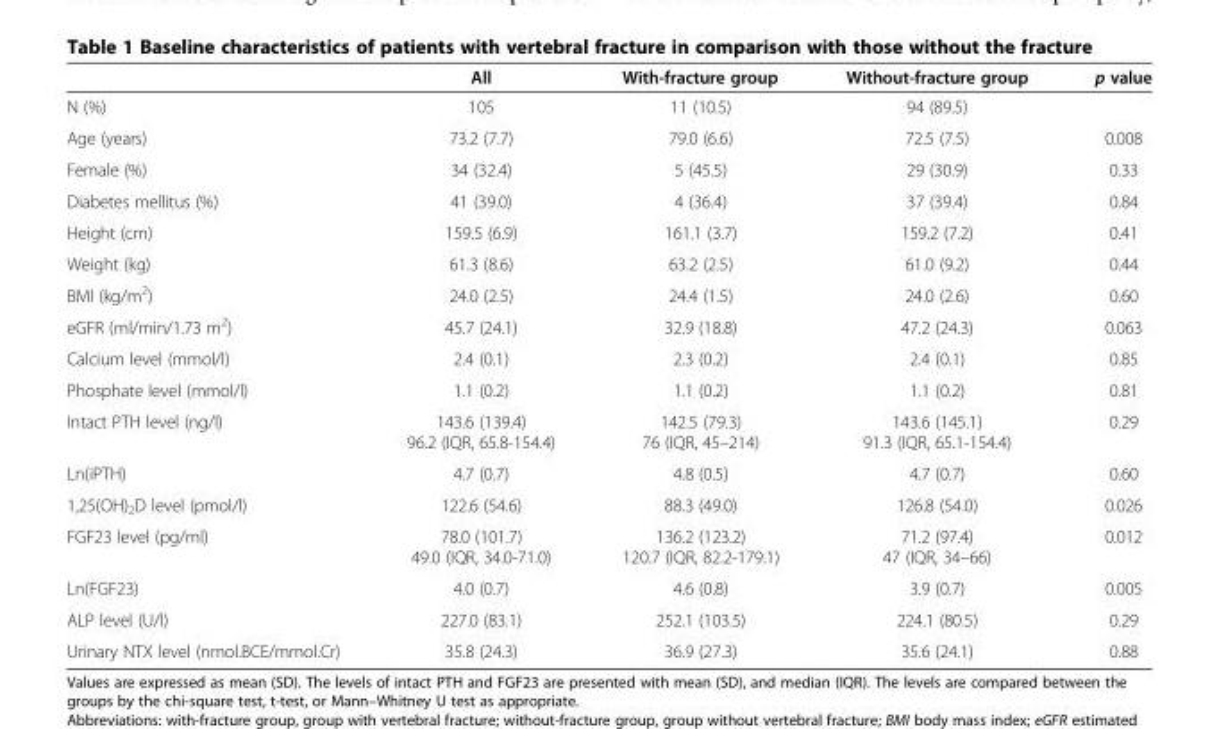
<table><thead><tr><td></td><td>All</td><td>With-fracture group</td><td>Without-fracture group</td><td>p value</td></tr></thead><tbody><tr><td>N (%)</td><td>105</td><td>11 (10.5)</td><td>94 (89.5)</td><td></td></tr><tr><td>Age (years)</td><td>73.2 (7.7)</td><td>79.0 (6.6)</td><td>72.5 (7.5)</td><td>0.008</td></tr><tr><td>Female (%)</td><td>34 (32.4)</td><td>5 (45.5)</td><td>29 (30.9)</td><td>0.33</td></tr><tr><td>Diabetes mellitus (%)</td><td>41 (39.0)</td><td>4 (36.4)</td><td>37 (39.4)</td><td>0.84</td></tr><tr><td>Height (cm)</td><td>159.5 (6.9)</td><td>161.1 (3.7)</td><td>159.2 (7.2)</td><td>0.41</td></tr><tr><td>Weight (kg)</td><td>61.3 (8.6)</td><td>63.2 (2.5)</td><td>61.0 (9.2)</td><td>0.44</td></tr><tr><td>BMI (kg/m<sup>2</sup>)</td><td>24.0 (2.5)</td><td>24.4 (1.5)</td><td>24.0 (2.6)</td><td>0.60</td></tr><tr><td>eGFR (ml/min/1.73 m<sup>2</sup>)</td><td>45.7 (24.1)</td><td>32.9 (18.8)</td><td>47.2 (24.3)</td><td>0.063</td></tr><tr><td>Calcium level (mmol/l)</td><td>2.4 (0.1)</td><td>2.3 (0.2)</td><td>2.4 (0.1)</td><td>0.85</td></tr><tr><td>Phosphate level (mmol/l)</td><td>1.1 (0.2)</td><td>1.1 (0.2)</td><td>1.1 (0.2)</td><td>0.81</td></tr><tr><td>Intact PTH level (ng/l)</td><td>143.6 (139.4) 96.2 (IQR, 65.8-154.4)</td><td>142.5 (79.3) 76 (IQR, 45–214)</td><td>143.6 (145.1) 91.3 (IQR, 65.1-154.4)</td><td>0.29</td></tr><tr><td>Ln(iPTH)</td><td>4.7 (0.7)</td><td>4.8 (0.5)</td><td>4.7 (0.7)</td><td>0.60</td></tr><tr><td>1,25(OH)<sub>2</sub>D level (pmol/l)</td><td>122.6 (54.6)</td><td>88.3 (49.0)</td><td>126.8 (54.0)</td><td>0.026</td></tr><tr><td>FGF23 level (pg/ml)</td><td>78.0 (101.7) 49.0 (IQR, 34.0-71.0)</td><td>136.2 (123.2) 120.7 (IQR, 82.2-179.1)</td><td>71.2 (97.4) 47 (IQR, 34–66)</td><td>0.012</td></tr><tr><td>Ln(FGF23)</td><td>4.0 (0.7)</td><td>4.6 (0.8)</td><td>3.9 (0.7)</td><td>0.005</td></tr><tr><td>ALP level (U/l)</td><td>227.0 (83.1)</td><td>252.1 (103.5)</td><td>224.1 (80.5)</td><td>0.29</td></tr><tr><td>Urinary NTX level (nmol.BCE/mmol.Cr)</td><td>35.8 (24.3)</td><td>36.9 (27.3)</td><td>35.6 (24.1)</td><td>0.88</td></tr></tbody></table>